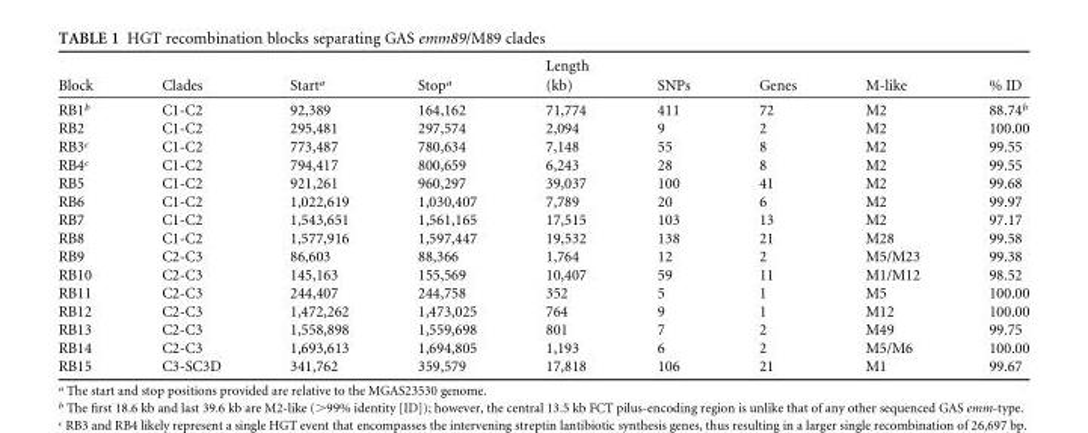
<table><thead><tr><td>Block</td><td>Clades</td><td>Start<sup>a</sup></td><td>Stop<sup>a</sup></td><td>Length (kb)</td><td>SNPs</td><td>Genes</td><td>M-like</td><td>% ID</td></tr></thead><tbody><tr><td>RB1<sup>b</sup></td><td>C1-C2</td><td>92,389</td><td>164,162</td><td>71,774</td><td>411</td><td>72</td><td>M2</td><td>88.74<sup>b</sup></td></tr><tr><td>RB2</td><td>C1-C2</td><td>295,481</td><td>297,574</td><td>2,094</td><td>9</td><td>2</td><td>M2</td><td>100.00</td></tr><tr><td>RB3<sup>c</sup></td><td>C1-C2</td><td>773,487</td><td>780,634</td><td>7,148</td><td>55</td><td>8</td><td>M2</td><td>99.55</td></tr><tr><td>RB4<sup>c</sup></td><td>C1-C2</td><td>794,417</td><td>800,659</td><td>6,243</td><td>28</td><td>8</td><td>M2</td><td>99.55</td></tr><tr><td>RB5</td><td>C1-C2</td><td>921,261</td><td>960,297</td><td>39,037</td><td>100</td><td>41</td><td>M2</td><td>99.68</td></tr><tr><td>RB6</td><td>C1-C2</td><td>1,022,619</td><td>1,030,407</td><td>7,789</td><td>20</td><td>6</td><td>M2</td><td>99.97</td></tr><tr><td>RB7</td><td>C1-C2</td><td>1,543,651</td><td>1,561,165</td><td>17,515</td><td>103</td><td>13</td><td>M2</td><td>97.17</td></tr><tr><td>RB8</td><td>C1-C2</td><td>1,577,916</td><td>1,597,447</td><td>19,532</td><td>138</td><td>21</td><td>M28</td><td>99.58</td></tr><tr><td>RB9</td><td>C2-C3</td><td>86,603</td><td>88,366</td><td>1,764</td><td>12</td><td>2</td><td>M5/M23</td><td>99.38</td></tr><tr><td>RB10</td><td>C2-C3</td><td>145,163</td><td>155,569</td><td>10,407</td><td>59</td><td>11</td><td>M1/M12</td><td>98.52</td></tr><tr><td>RB11</td><td>C2-C3</td><td>244,407</td><td>244,758</td><td>352</td><td>5</td><td>1</td><td>M5</td><td>100.00</td></tr><tr><td>RB12</td><td>C2-C3</td><td>1,472,262</td><td>1,473,025</td><td>764</td><td>9</td><td>1</td><td>M12</td><td>100.00</td></tr><tr><td>RB13</td><td>C2-C3</td><td>1,558,898</td><td>1,559,698</td><td>801</td><td>7</td><td>2</td><td>M49</td><td>99.75</td></tr><tr><td>RB14</td><td>C2-C3</td><td>1,693,613</td><td>1,694,805</td><td>1,193</td><td>6</td><td>2</td><td>M5/M6</td><td>100.00</td></tr><tr><td>RB15</td><td>C3-SC3D</td><td>341,762</td><td>359,579</td><td>17,818</td><td>106</td><td>21</td><td>M1</td><td>99.67</td></tr></tbody></table>